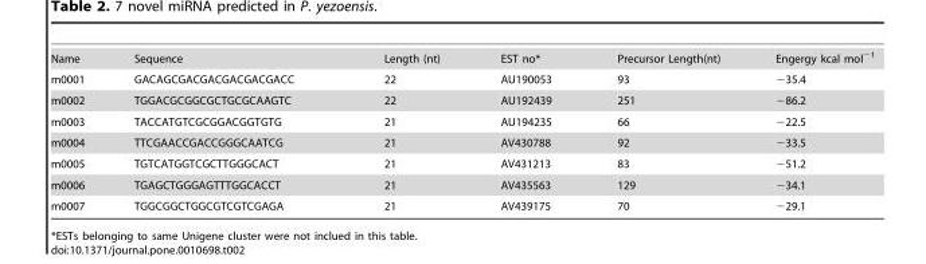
<table><tbody><tr><td>Name</td><td>Sequence</td><td>Length (nt)</td><td>EST no*</td><td>Precursor Length(nt)</td><td>Engergy kcal mol<sup>−1</sup></td></tr><tr><td>m0001</td><td>GACAGCGACGACGACGACGACC</td><td>22</td><td>AU190053</td><td>93</td><td>−35.4</td></tr><tr><td>m0002</td><td>TGGACGCGGCGCTGCGCAAGTC</td><td>22</td><td>AU192439</td><td>251</td><td>−86.2</td></tr><tr><td>m0003</td><td>TACCATGTCGCGGACGGTGTG</td><td>21</td><td>AU194235</td><td>66</td><td>−22.5</td></tr><tr><td>m0004</td><td>TTCGAACCGACCGGGCAATCG</td><td>21</td><td>AV430788</td><td>92</td><td>−33.5</td></tr><tr><td>m0005</td><td>TGTCATGGTCGCTTGGGCACT</td><td>21</td><td>AV431213</td><td>83</td><td>−51.2</td></tr><tr><td>m0006</td><td>TGAGCTGGGAGTTTGGCACCT</td><td>21</td><td>AV435563</td><td>129</td><td>−34.1</td></tr><tr><td>m0007</td><td>TGGCGGCTGGCGTCGTCGAGA</td><td>21</td><td>AV439175</td><td>70</td><td>−29.1</td></tr></tbody></table>